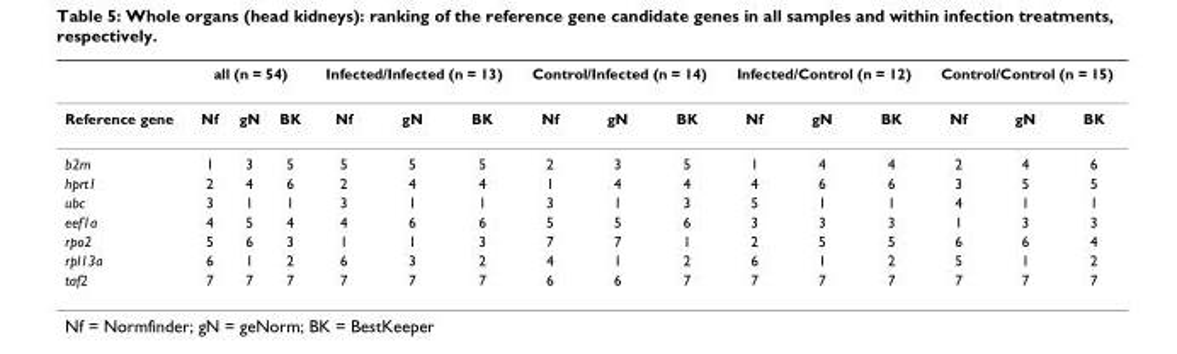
<table><thead><tr><td rowspan="2">Reference gene</td><td colspan="3">all (n = 54)</td><td colspan="3">Infected/Infected (n = 13)</td><td colspan="3">Control/Infected (n = 14)</td><td colspan="3">Infected/Control (n = 12)</td><td colspan="3">Control/Control (n = 15)</td></tr><tr><td>Nf</td><td>gN</td><td>BK</td><td>Nf</td><td>gN</td><td>BK</td><td>Nf</td><td>gN</td><td>BK</td><td>Nf</td><td>gN</td><td>BK</td><td>Nf</td><td>gN</td><td>BK</td></tr></thead><tbody><tr><td>b2m</td><td>1</td><td>3</td><td>5</td><td>5</td><td>5</td><td>5</td><td>2</td><td>3</td><td>5</td><td>1</td><td>4</td><td>4</td><td>2</td><td>4</td><td>6</td></tr><tr><td>hprt1</td><td>2</td><td>4</td><td>6</td><td>2</td><td>4</td><td>4</td><td>1</td><td>4</td><td>4</td><td>4</td><td>6</td><td>6</td><td>3</td><td>5</td><td>5</td></tr><tr><td>ubc</td><td>3</td><td>1</td><td>1</td><td>3</td><td>1</td><td>1</td><td>3</td><td>1</td><td>3</td><td>5</td><td>1</td><td>1</td><td>4</td><td>1</td><td>1</td></tr><tr><td>eef1a</td><td>4</td><td>5</td><td>4</td><td>4</td><td>6</td><td>6</td><td>5</td><td>5</td><td>6</td><td>3</td><td>3</td><td>3</td><td>1</td><td>3</td><td>3</td></tr><tr><td>rpo2</td><td>5</td><td>6</td><td>3</td><td>1</td><td>1</td><td>3</td><td>7</td><td>7</td><td>1</td><td>2</td><td>5</td><td>5</td><td>6</td><td>6</td><td>4</td></tr><tr><td>rpl13a</td><td>6</td><td>1</td><td>2</td><td>6</td><td>3</td><td>2</td><td>4</td><td>1</td><td>2</td><td>6</td><td>1</td><td>2</td><td>5</td><td>1</td><td>2</td></tr><tr><td>taf2</td><td>7</td><td>7</td><td>7</td><td>7</td><td>7</td><td>7</td><td>6</td><td>6</td><td>7</td><td>7</td><td>7</td><td>7</td><td>7</td><td>7</td><td>7</td></tr></tbody></table>